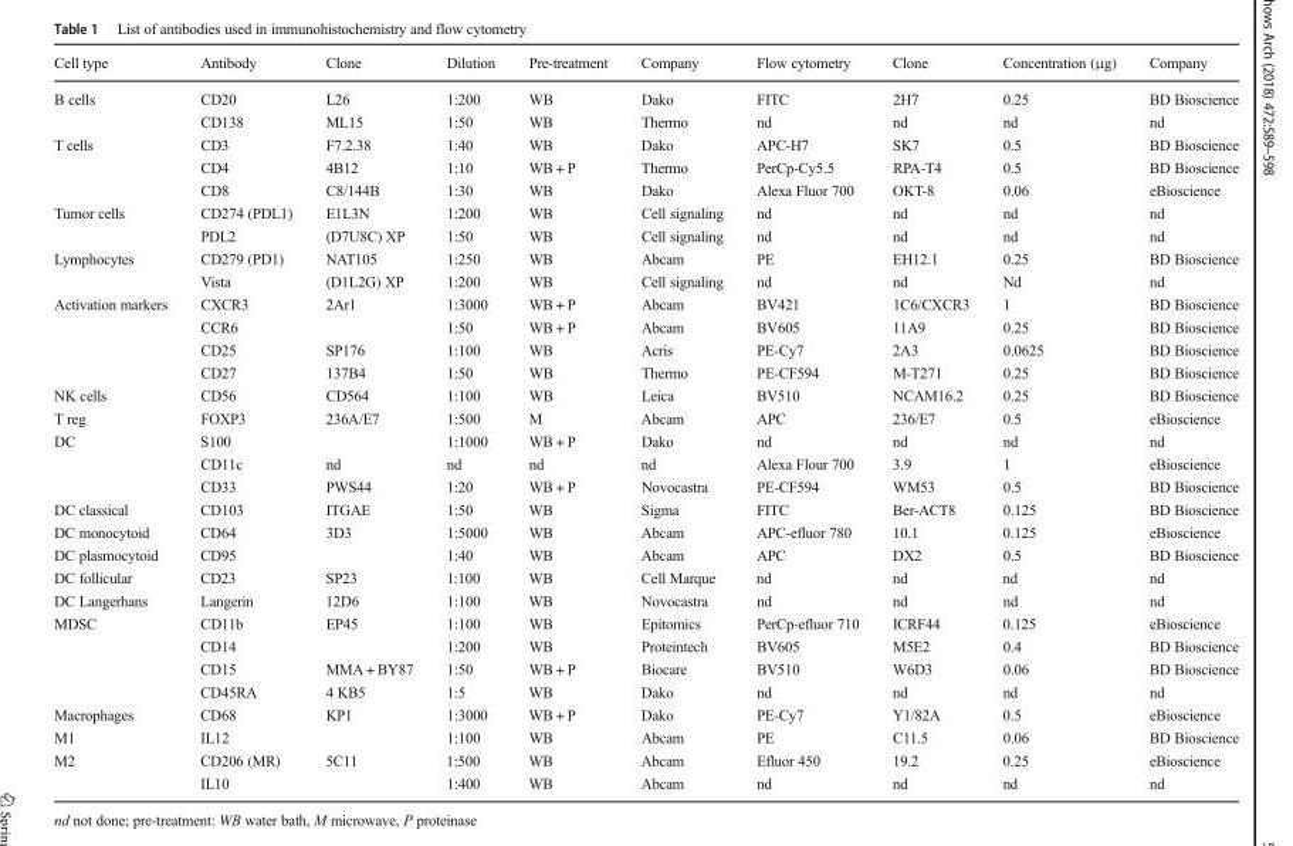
<table><thead><tr><td>Cell type</td><td>Antibody</td><td>Clone</td><td>Dilution</td><td>Pre-treatment</td><td>Company</td><td>Flow cytometry</td><td>Clone</td><td>Concentration (μg)</td><td>Company</td></tr></thead><tbody><tr><td rowspan="2">B cells</td><td>CD20</td><td>L26</td><td>1:200</td><td>WB</td><td>Dako</td><td>FITC</td><td>2H7</td><td>0.25</td><td>BD Bioscience</td></tr><tr><td>CD138</td><td>ML15</td><td>1:50</td><td>WB</td><td>Thermo</td><td>nd</td><td>nd</td><td>nd</td><td>nd</td></tr><tr><td rowspan="3">T cells</td><td>CD3</td><td>F7.2.38</td><td>1:40</td><td>WB</td><td>Dako</td><td>APC-H7</td><td>SK7</td><td>0.5</td><td>BD Bioscience</td></tr><tr><td>CD4</td><td>4B12</td><td>1:10</td><td>WB + P</td><td>Thermo</td><td>PerCp-Cy5.5</td><td>RPA-T4</td><td>0.5</td><td>BD Bioscience</td></tr><tr><td>CD8</td><td>C8/144B</td><td>1:30</td><td>WB</td><td>Dako</td><td>Alexa Fluor 700</td><td>OKT-8</td><td>0.06</td><td>eBioscience</td></tr><tr><td rowspan="2">Tumor cells</td><td>CD274 (PDL1)</td><td>E1L3N</td><td>1:200</td><td>WB</td><td>Cell signaling</td><td>nd</td><td>nd</td><td>nd</td><td>nd</td></tr><tr><td>PDL2</td><td>(D7U8C) XP</td><td>1:50</td><td>WB</td><td>Cell signaling</td><td>nd</td><td>nd</td><td>nd</td><td>nd</td></tr><tr><td rowspan="2">Lymphocytes</td><td>CD279 (PD1)</td><td>NAT105</td><td>1:250</td><td>WB</td><td>Abcam</td><td>PE</td><td>EH12.1</td><td>0.25</td><td>BD Bioscience</td></tr><tr><td>Vista</td><td>(D1L2G) XP</td><td>1:200</td><td>WB</td><td>Cell signaling</td><td>nd</td><td>nd</td><td>Nd</td><td>nd</td></tr><tr><td rowspan="4">Activation markers</td><td>CXCR3</td><td>2Ar1</td><td>1:3000</td><td>WB + P</td><td>Abcam</td><td>BV421</td><td>1C6/CXCR3</td><td>1</td><td>BD Bioscience</td></tr><tr><td>CCR6</td><td></td><td>1:50</td><td>WB + P</td><td>Abcam</td><td>BV605</td><td>11A9</td><td>0.25</td><td>BD Bioscience</td></tr><tr><td>CD25</td><td>SP176</td><td>1:100</td><td>WB</td><td>Acris</td><td>PE-Cy7</td><td>2A3</td><td>0.0625</td><td>BD Bioscience</td></tr><tr><td>CD27</td><td>137B4</td><td>1:50</td><td>WB</td><td>Thermo</td><td>PE-CF594</td><td>M-T271</td><td>0.25</td><td>BD Bioscience</td></tr><tr><td>NK cells</td><td>CD56</td><td>CD564</td><td>1:100</td><td>WB</td><td>Leica</td><td>BV510</td><td>NCAM16.2</td><td>0.25</td><td>BD Bioscience</td></tr><tr><td>T reg</td><td>FOXP3</td><td>236A/E7</td><td>1:500</td><td>M</td><td>Abcam</td><td>APC</td><td>236/E7</td><td>0.5</td><td>eBioscience</td></tr><tr><td rowspan="3">DC</td><td>S100</td><td></td><td>1:1000</td><td>WB + P</td><td>Dako</td><td>nd</td><td>nd</td><td>nd</td><td>nd</td></tr><tr><td>CD11c</td><td>nd</td><td>nd</td><td>nd</td><td>nd</td><td>Alexa Flour 700</td><td>3.9</td><td>1</td><td>eBioscience</td></tr><tr><td>CD33</td><td>PWS44</td><td>1:20</td><td>WB + P</td><td>Novocastra</td><td>PE-CF594</td><td>WM53</td><td>0.5</td><td>BD Bioscience</td></tr><tr><td>DC classical</td><td>CD103</td><td>ITGAE</td><td>1:50</td><td>WB</td><td>Sigma</td><td>FITC</td><td>Ber-ACT8</td><td>0.125</td><td>BD Bioscience</td></tr><tr><td>DC monocytoid</td><td>CD64</td><td>3D3</td><td>1:5000</td><td>WB</td><td>Abcam</td><td>APC-efluor 780</td><td>10.1</td><td>0.125</td><td>eBioscience</td></tr><tr><td>DC plasmocytoid</td><td>CD95</td><td></td><td>1:40</td><td>WB</td><td>Abcam</td><td>APC</td><td>DX2</td><td>0.5</td><td>BD Bioscience</td></tr><tr><td>DC follicular</td><td>CD23</td><td>SP23</td><td>1:100</td><td>WB</td><td>Cell Marque</td><td>nd</td><td>nd</td><td>nd</td><td>nd</td></tr><tr><td>DC Langerhans</td><td>Langerin</td><td>12D6</td><td>1:100</td><td>WB</td><td>Novocastra</td><td>nd</td><td>nd</td><td>nd</td><td>nd</td></tr><tr><td rowspan="4">MDSC</td><td>CD11b</td><td>EP45</td><td>1:100</td><td>WB</td><td>Epitomics</td><td>PerCp-efluor 710</td><td>ICRF44</td><td>0.125</td><td>eBioscience</td></tr><tr><td>CD14</td><td></td><td>1:200</td><td>WB</td><td>Proteintech</td><td>BV605</td><td>M5E2</td><td>0.4</td><td>BD Bioscience</td></tr><tr><td>CD15</td><td>MMA + BY87</td><td>1:50</td><td>WB + P</td><td>Biocare</td><td>BV510</td><td>W6D3</td><td>0.06</td><td>BD Bioscience</td></tr><tr><td>CD45RA</td><td>4 KB5</td><td>1:5</td><td>WB</td><td>Dako</td><td>nd</td><td>nd</td><td>nd</td><td>nd</td></tr><tr><td>Macrophages</td><td>CD68</td><td>KP1</td><td>1:3000</td><td>WB + P</td><td>Dako</td><td>PE-Cy7</td><td>Y1/82A</td><td>0.5</td><td>eBioscience</td></tr><tr><td>M1</td><td>IL12</td><td></td><td>1:100</td><td>WB</td><td>Abcam</td><td>PE</td><td>C11.5</td><td>0.06</td><td>BD Bioscience</td></tr><tr><td rowspan="2">M2</td><td>CD206 (MR)</td><td>5C11</td><td>1:500</td><td>WB</td><td>Abcam</td><td>Efluor 450</td><td>19.2</td><td>0.25</td><td>eBioscience</td></tr><tr><td>IL10</td><td></td><td>1:400</td><td>WB</td><td>Abcam</td><td>nd</td><td>nd</td><td>nd</td><td>nd</td></tr></tbody></table>